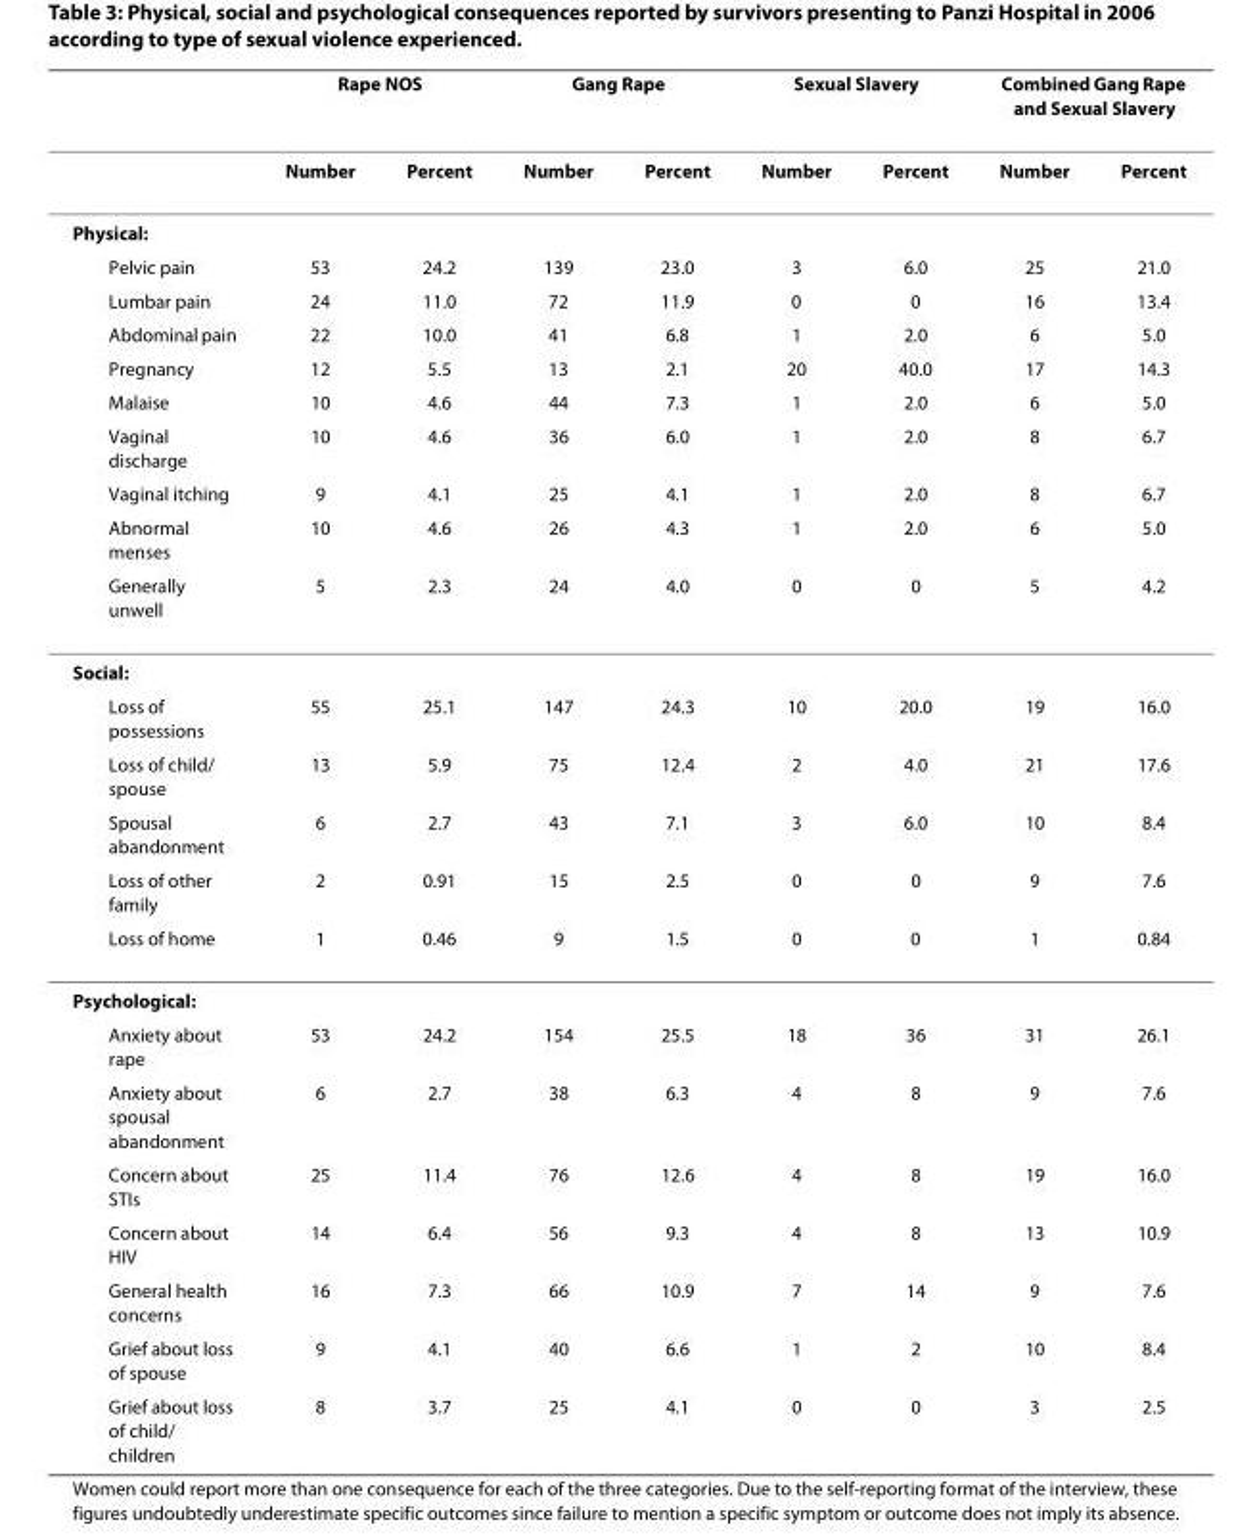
<table><thead><tr><td rowspan="2"></td><td colspan="2">Rape NOS</td><td colspan="2">Gang Rape</td><td colspan="2">Sexual Slavery</td><td colspan="2">Combined Gang Rape and Sexual Slavery</td></tr><tr><td>Number</td><td>Percent</td><td>Number</td><td>Percent</td><td>Number</td><td>Percent</td><td>Number</td><td>Percent</td></tr></thead><tbody><tr><td colspan="9">Physical:</td></tr><tr><td>Pelvic pain</td><td>53</td><td>24.2</td><td>139</td><td>23.0</td><td>3</td><td>6.0</td><td>25</td><td>21.0</td></tr><tr><td>Lumbar pain</td><td>24</td><td>11.0</td><td>72</td><td>11.9</td><td>0</td><td>0</td><td>16</td><td>13.4</td></tr><tr><td>Abdominal pain</td><td>22</td><td>10.0</td><td>41</td><td>6.8</td><td>1</td><td>2.0</td><td>6</td><td>5.0</td></tr><tr><td>Pregnancy</td><td>12</td><td>5.5</td><td>13</td><td>2.1</td><td>20</td><td>40.0</td><td>17</td><td>14.3</td></tr><tr><td>Malaise</td><td>10</td><td>4.6</td><td>44</td><td>7.3</td><td>1</td><td>2.0</td><td>6</td><td>5.0</td></tr><tr><td>Vaginal discharge</td><td>10</td><td>4.6</td><td>36</td><td>6.0</td><td>1</td><td>2.0</td><td>8</td><td>6.7</td></tr><tr><td>Vaginal itching</td><td>9</td><td>4.1</td><td>25</td><td>4.1</td><td>1</td><td>2.0</td><td>8</td><td>6.7</td></tr><tr><td>Abnormal menses</td><td>10</td><td>4.6</td><td>26</td><td>4.3</td><td>1</td><td>2.0</td><td>6</td><td>5.0</td></tr><tr><td>Generally unwell</td><td>5</td><td>2.3</td><td>24</td><td>4.0</td><td>0</td><td>0</td><td>5</td><td>4.2</td></tr><tr><td colspan="9">Social:</td></tr><tr><td>Loss of possessions</td><td>55</td><td>25.1</td><td>147</td><td>24.3</td><td>10</td><td>20.0</td><td>19</td><td>16.0</td></tr><tr><td>Loss of child/ spouse</td><td>13</td><td>5.9</td><td>75</td><td>12.4</td><td>2</td><td>4.0</td><td>21</td><td>17.6</td></tr><tr><td>Spousal abandonment</td><td>6</td><td>2.7</td><td>43</td><td>7.1</td><td>3</td><td>6.0</td><td>10</td><td>8.4</td></tr><tr><td>Loss of other family</td><td>2</td><td>0.91</td><td>15</td><td>2.5</td><td>0</td><td>0</td><td>9</td><td>7.6</td></tr><tr><td>Loss of home</td><td>1</td><td>0.46</td><td>9</td><td>1.5</td><td>0</td><td>0</td><td>1</td><td>0.84</td></tr><tr><td colspan="9">Psychological:</td></tr><tr><td>Anxiety about rape</td><td>53</td><td>24.2</td><td>154</td><td>25.5</td><td>18</td><td>36</td><td>31</td><td>26.1</td></tr><tr><td>Anxiety about spousal abandonment</td><td>6</td><td>2.7</td><td>38</td><td>6.3</td><td>4</td><td>8</td><td>9</td><td>7.6</td></tr><tr><td>Concern about STIs</td><td>25</td><td>11.4</td><td>76</td><td>12.6</td><td>4</td><td>8</td><td>19</td><td>16.0</td></tr><tr><td>Concern about HIV</td><td>14</td><td>6.4</td><td>56</td><td>9.3</td><td>4</td><td>8</td><td>13</td><td>10.9</td></tr><tr><td>General health concerns</td><td>16</td><td>7.3</td><td>66</td><td>10.9</td><td>7</td><td>14</td><td>9</td><td>7.6</td></tr><tr><td>Grief about loss of spouse</td><td>9</td><td>4.1</td><td>40</td><td>6.6</td><td>1</td><td>2</td><td>10</td><td>8.4</td></tr><tr><td>Grief about loss of child/ children</td><td>8</td><td>3.7</td><td>25</td><td>4.1</td><td>0</td><td>0</td><td>3</td><td>2.5</td></tr></tbody></table>